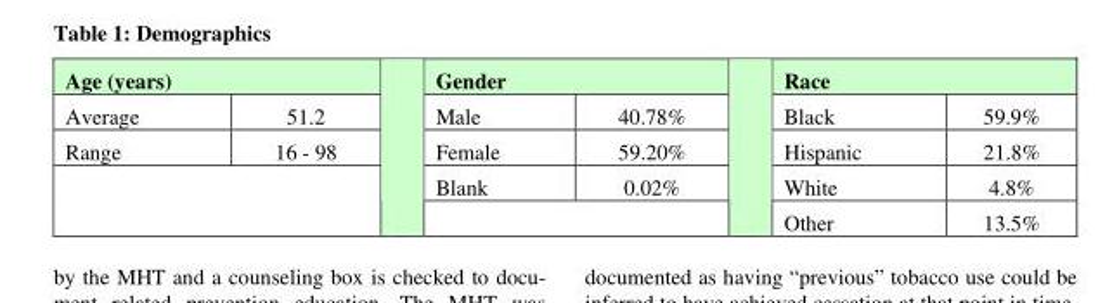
<table><thead><tr><td>Age (years)</td><td></td><td>Gender</td><td></td><td>Race</td><td></td></tr></thead><tbody><tr><td>Average</td><td>51.2</td><td>Male</td><td>40.78%</td><td>Black</td><td>59.9%</td></tr><tr><td rowspan="3">Range</td><td>16 - 98</td><td>Female</td><td>59.20%</td><td>Hispanic</td><td>21.8%</td></tr><tr><td></td><td>Blank</td><td>0.02%</td><td>White</td><td>4.8%</td></tr><tr><td></td><td></td><td></td><td>Other</td><td>13.5%</td></tr></tbody></table>